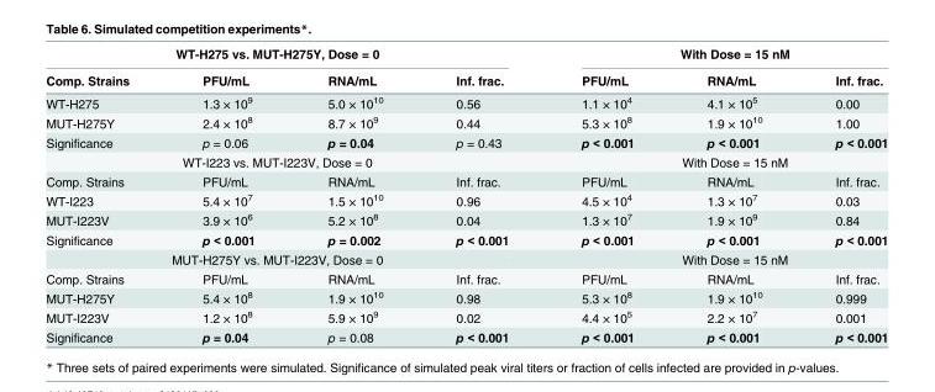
<table><thead><tr><td colspan="4">WT-H275 vs. MUT-H275Y, Dose = 0</td><td colspan="3">With Dose = 15 nM</td></tr><tr><td>Comp. Strains</td><td>PFU/mL</td><td>RNA/mL</td><td>Inf. frac.</td><td>PFU/mL</td><td>RNA/mL</td><td>Inf. frac.</td></tr></thead><tbody><tr><td>WT-H275</td><td>1.3 × 10<sup>9</sup></td><td>5.0 × 10<sup>10</sup></td><td>0.56</td><td>1.1 × 10<sup>4</sup></td><td>4.1 × 10<sup>5</sup></td><td>0.00</td></tr><tr><td>MUT-H275Y</td><td>2.4 × 10<sup>8</sup></td><td>8.7 × 10<sup>9</sup></td><td>0.44</td><td>5.3 × 10<sup>8</sup></td><td>1.9 × 10<sup>10</sup></td><td>1.00</td></tr><tr><td>Significance</td><td>p = 0.06</td><td>p = 0.04</td><td>p = 0.43</td><td>p &lt; 0.001</td><td>p &lt; 0.001</td><td>p &lt; 0.001</td></tr><tr><td colspan="4">WT-I223 vs. MUT-I223V, Dose = 0</td><td colspan="3">With Dose = 15 nM</td></tr><tr><td>Comp. Strains</td><td>PFU/mL</td><td>RNA/mL</td><td>Inf. frac.</td><td>PFU/mL</td><td>RNA/mL</td><td>Inf. frac.</td></tr><tr><td>WT-I223</td><td>5.4 × 10<sup>7</sup></td><td>1.5 × 10<sup>10</sup></td><td>0.96</td><td>4.5 × 10<sup>4</sup></td><td>1.3 × 10<sup>7</sup></td><td>0.03</td></tr><tr><td>MUT-I223V</td><td>3.9 × 10<sup>6</sup></td><td>5.2 × 10<sup>8</sup></td><td>0.04</td><td>1.3 × 10<sup>7</sup></td><td>1.9 × 10<sup>9</sup></td><td>0.84</td></tr><tr><td>Significance</td><td>p &lt; 0.001</td><td>p = 0.002</td><td>p &lt; 0.001</td><td>p &lt; 0.001</td><td>p &lt; 0.001</td><td>p &lt; 0.001</td></tr><tr><td colspan="4">MUT-H275Y vs. MUT-I223V, Dose = 0</td><td colspan="3">With Dose = 15 nM</td></tr><tr><td>Comp. Strains</td><td>PFU/mL</td><td>RNA/mL</td><td>Inf. frac.</td><td>PFU/mL</td><td>RNA/mL</td><td>Inf. frac.</td></tr><tr><td>MUT-H275Y</td><td>5.4 × 10<sup>8</sup></td><td>1.9 × 10<sup>10</sup></td><td>0.98</td><td>5.3 × 10<sup>8</sup></td><td>1.9 × 10<sup>10</sup></td><td>0.999</td></tr><tr><td>MUT-I223V</td><td>1.2 × 10<sup>8</sup></td><td>5.9 × 10<sup>9</sup></td><td>0.02</td><td>4.4 × 10<sup>5</sup></td><td>2.2 × 10<sup>7</sup></td><td>0.001</td></tr><tr><td>Significance</td><td>p = 0.04</td><td>p = 0.08</td><td>p &lt; 0.001</td><td>p &lt; 0.001</td><td>p &lt; 0.001</td><td>p &lt; 0.001</td></tr></tbody></table>